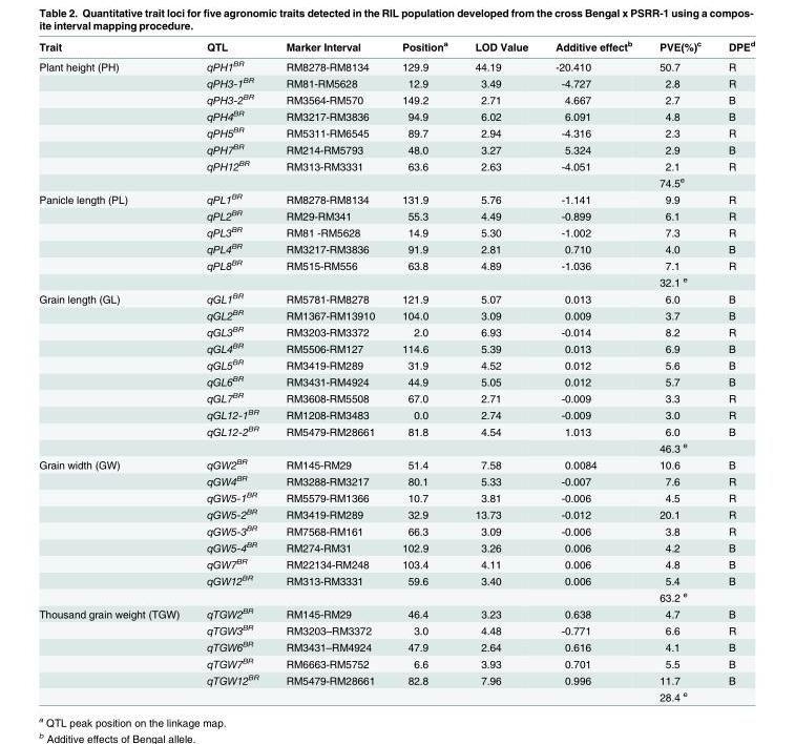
<table><thead><tr><td>Trait</td><td>QTL</td><td>Marker Interval</td><td>Position<sup>a</sup></td><td>LOD Value</td><td>Additive effect<sup>b</sup></td><td>PVE(%)<sup>c</sup></td><td>DPE<sup>d</sup></td></tr></thead><tbody><tr><td rowspan="8">Plant height (PH)</td><td>qPH1<sup>BR</sup></td><td>RM8278-RM8134</td><td>129.9</td><td>44.19</td><td>-20.410</td><td>50.7</td><td>R</td></tr><tr><td>qPH3-1<sup>BR</sup></td><td>RM81-RM5628</td><td>12.9</td><td>3.49</td><td>-4.727</td><td>2.8</td><td>R</td></tr><tr><td>qPH3-2<sup>BR</sup></td><td>RM3564-RM570</td><td>149.2</td><td>2.71</td><td>4.667</td><td>2.7</td><td>B</td></tr><tr><td>qPH4<sup>BR</sup></td><td>RM3217-RM3836</td><td>94.9</td><td>6.02</td><td>6.091</td><td>4.8</td><td>B</td></tr><tr><td>qPH5<sup>BR</sup></td><td>RM5311-RM6545</td><td>89.7</td><td>2.94</td><td>-4.316</td><td>2.3</td><td>R</td></tr><tr><td>qPH7<sup>BR</sup></td><td>RM214-RM5793</td><td>48.0</td><td>3.27</td><td>5.324</td><td>2.9</td><td>B</td></tr><tr><td>qPH12<sup>BR</sup></td><td>RM313-RM3331</td><td>63.6</td><td>2.63</td><td>-4.051</td><td>2.1</td><td>R</td></tr><tr><td></td><td></td><td></td><td></td><td></td><td>74.5<sup>e</sup></td><td></td></tr><tr><td rowspan="6">Panicle length (PL)</td><td>qPL1<sup>BR</sup></td><td>RM8278-RM8134</td><td>131.9</td><td>5.76</td><td>-1.141</td><td>9.9</td><td>R</td></tr><tr><td>qPL2<sup>BR</sup></td><td>RM29-RM341</td><td>55.3</td><td>4.49</td><td>-0.899</td><td>6.1</td><td>R</td></tr><tr><td>qPL3<sup>BR</sup></td><td>RM81 -RM5628</td><td>14.9</td><td>5.30</td><td>-1.002</td><td>7.3</td><td>R</td></tr><tr><td>qPL4<sup>BR</sup></td><td>RM3217-RM3836</td><td>91.9</td><td>2.81</td><td>0.710</td><td>4.0</td><td>B</td></tr><tr><td>qPL8<sup>BR</sup></td><td>RM515-RM556</td><td>63.8</td><td>4.89</td><td>-1.036</td><td>7.1</td><td>R</td></tr><tr><td></td><td></td><td></td><td></td><td></td><td>32.1 <sup>e</sup></td><td></td></tr><tr><td rowspan="10">Grain length (GL)</td><td>qGL1<sup>BR</sup></td><td>RM5781-RM8278</td><td>121.9</td><td>5.07</td><td>0.013</td><td>6.0</td><td>B</td></tr><tr><td>qGL2<sup>BR</sup></td><td>RM1367-RM13910</td><td>104.0</td><td>3.09</td><td>0.009</td><td>3.7</td><td>B</td></tr><tr><td>qGL3<sup>BR</sup></td><td>RM3203-RM3372</td><td>2.0</td><td>6.93</td><td>-0.014</td><td>8.2</td><td>R</td></tr><tr><td>qGL4<sup>BR</sup></td><td>RM5506-RM127</td><td>114.6</td><td>5.39</td><td>0.013</td><td>6.9</td><td>B</td></tr><tr><td>qGL5<sup>BR</sup></td><td>RM3419-RM289</td><td>31.9</td><td>4.52</td><td>0.012</td><td>5.6</td><td>B</td></tr><tr><td>qGL6<sup>BR</sup></td><td>RM3431-RM4924</td><td>44.9</td><td>5.05</td><td>0.012</td><td>5.7</td><td>B</td></tr><tr><td>qGL7<sup>BR</sup></td><td>RM3608-RM5508</td><td>67.0</td><td>2.71</td><td>-0.009</td><td>3.3</td><td>R</td></tr><tr><td>qGL12-1<sup>BR</sup></td><td>RM1208-RM3483</td><td>0.0</td><td>2.74</td><td>-0.009</td><td>3.0</td><td>R</td></tr><tr><td>qGL12-2<sup>BR</sup></td><td>RM5479-RM28661</td><td>81.8</td><td>4.54</td><td>1.013</td><td>6.0</td><td>B</td></tr><tr><td></td><td></td><td></td><td></td><td></td><td>46.3 <sup>e</sup></td><td></td></tr><tr><td rowspan="9">Grain width (GW)</td><td>qGW2<sup>BR</sup></td><td>RM145-RM29</td><td>51.4</td><td>7.58</td><td>0.0084</td><td>10.6</td><td>B</td></tr><tr><td>qGW4<sup>BR</sup></td><td>RM3288-RM3217</td><td>80.1</td><td>5.33</td><td>-0.007</td><td>7.6</td><td>R</td></tr><tr><td>qGW5-1<sup>BR</sup></td><td>RM5579-RM1366</td><td>10.7</td><td>3.81</td><td>-0.006</td><td>4.5</td><td>R</td></tr><tr><td>qGW5-2<sup>BR</sup></td><td>RM3419-RM289</td><td>32.9</td><td>13.73</td><td>-0.012</td><td>20.1</td><td>R</td></tr><tr><td>qGW5-3<sup>BR</sup></td><td>RM7568-RM161</td><td>66.3</td><td>3.09</td><td>-0.006</td><td>3.8</td><td>R</td></tr><tr><td>qGW5-4<sup>BR</sup></td><td>RM274-RM31</td><td>102.9</td><td>3.26</td><td>0.006</td><td>4.2</td><td>B</td></tr><tr><td>qGW7<sup>BR</sup></td><td>RM22134-RM248</td><td>103.4</td><td>4.11</td><td>0.006</td><td>4.8</td><td>B</td></tr><tr><td>qGW12<sup>BR</sup></td><td>RM313-RM3331</td><td>59.6</td><td>3.40</td><td>0.006</td><td>5.4</td><td>B</td></tr><tr><td></td><td></td><td></td><td></td><td></td><td>63.2 <sup>e</sup></td><td></td></tr><tr><td rowspan="6">Thousand grain weight (TGW)</td><td>qTGW2<sup>BR</sup></td><td>RM145-RM29</td><td>46.4</td><td>3.23</td><td>0.638</td><td>4.7</td><td>B</td></tr><tr><td>qTGW3<sup>BR</sup></td><td>RM3203–RM3372</td><td>3.0</td><td>4.48</td><td>-0.771</td><td>6.6</td><td>R</td></tr><tr><td>qTGW6<sup>BR</sup></td><td>RM3431–RM4924</td><td>47.9</td><td>2.64</td><td>0.616</td><td>4.1</td><td>B</td></tr><tr><td>qTGW7<sup>BR</sup></td><td>RM6663-RM5752</td><td>6.6</td><td>3.93</td><td>0.701</td><td>5.5</td><td>B</td></tr><tr><td>qTGW12<sup>BR</sup></td><td>RM5479-RM28661</td><td>82.8</td><td>7.96</td><td>0.996</td><td>11.7</td><td>B</td></tr><tr><td></td><td></td><td></td><td></td><td></td><td>28.4 <sup>e</sup></td><td></td></tr></tbody></table>